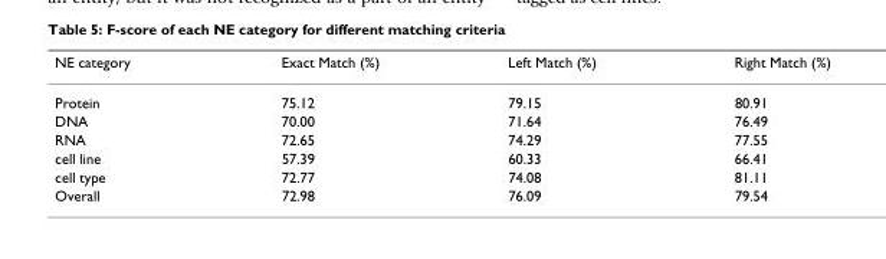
<table><thead><tr><td>NE category</td><td>Exact Match (%)</td><td>Left Match (%)</td><td>Right Match (%)</td></tr></thead><tbody><tr><td>Protein</td><td>75.12</td><td>79.15</td><td>80.91</td></tr><tr><td>DNA</td><td>70.00</td><td>71.64</td><td>76.49</td></tr><tr><td>RNA</td><td>72.65</td><td>74.29</td><td>77.55</td></tr><tr><td>cell line</td><td>57.39</td><td>60.33</td><td>66.41</td></tr><tr><td>cell type</td><td>72.77</td><td>74.08</td><td>81.11</td></tr><tr><td>Overall</td><td>72.98</td><td>76.09</td><td>79.54</td></tr></tbody></table>